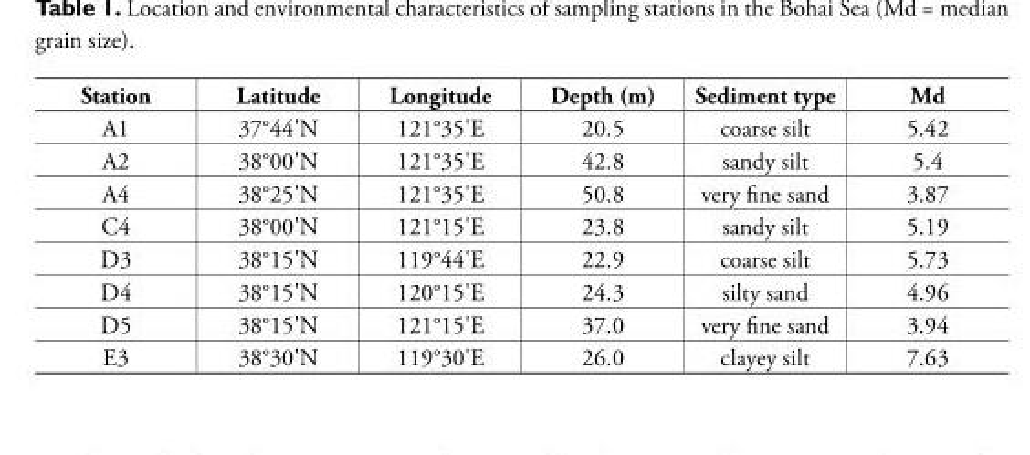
<table><thead><tr><td>Station</td><td>Latitude Longitude</td><td>Depth (m)</td><td>Sediment type</td><td>Md</td></tr></thead><tbody><tr><td>A1</td><td>37°44&#x27;N 121°35&#x27;E</td><td>20.5</td><td>coarse silt</td><td>5.42</td></tr><tr><td>A2</td><td>38°00&#x27;N 121°35&#x27;E</td><td>42.8</td><td>sandy silt</td><td>5.4</td></tr><tr><td>A4</td><td>38°25&#x27;N 121°35&#x27;E</td><td>50.8</td><td>very fine sand</td><td>3.87</td></tr><tr><td>C4</td><td>38°00&#x27;N 121°15&#x27;E</td><td>23.8</td><td>sandy silt</td><td>5.19</td></tr><tr><td>D3</td><td>38°15&#x27;N 119°44&#x27;E</td><td>22.9</td><td>coarse silt</td><td>5.73</td></tr><tr><td>D4</td><td>38°15&#x27;N 120°15&#x27;E</td><td>24.3</td><td>silty sand</td><td>4.96</td></tr><tr><td>D5</td><td>38°15&#x27;N 121°15&#x27;E</td><td>37.0</td><td>very fine sand</td><td>3.94</td></tr><tr><td>E3</td><td>38°30&#x27;N 119°30&#x27;E</td><td>26.0</td><td>clayey silt</td><td>7.63</td></tr></tbody></table>